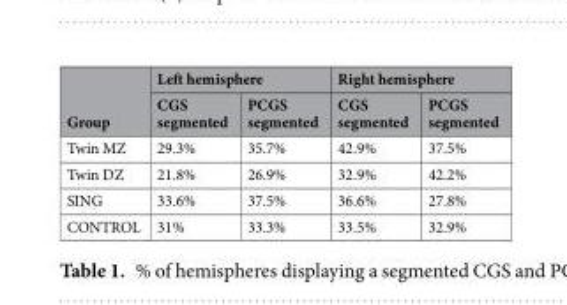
<table><thead><tr><td rowspan="2">Group</td><td colspan="2">Left hemisphere</td><td colspan="2">Right hemisphere</td></tr><tr><td>CGS segmented</td><td>PCGS segmented</td><td>CGS segmented</td><td>PCGS segmented</td></tr></thead><tbody><tr><td>Twin MZ</td><td>29.3%</td><td>35.7%</td><td>42.9%</td><td>37.5%</td></tr><tr><td>Twin DZ</td><td>21.8%</td><td>26.9%</td><td>32.9%</td><td>42.2%</td></tr><tr><td>SING</td><td>33.6%</td><td>37.5%</td><td>36.6%</td><td>27.8%</td></tr><tr><td>CONTROL</td><td>31%</td><td>33.3%</td><td>33.5%</td><td>32.9%</td></tr></tbody></table>